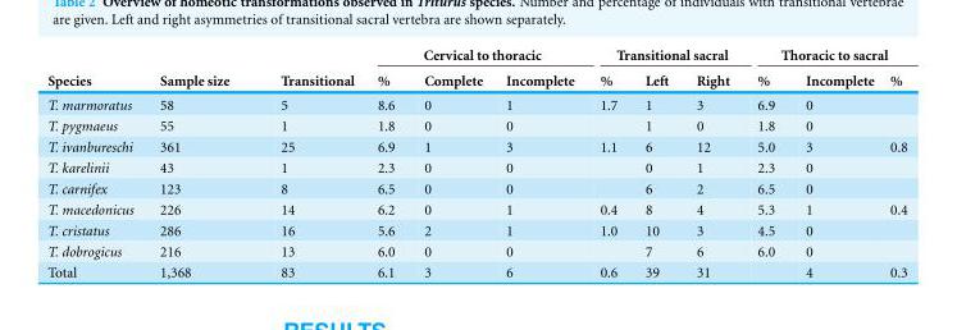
<table><thead><tr><td rowspan="2">Species</td><td rowspan="2">Sample size</td><td rowspan="2">Transitional</td><td colspan="3">Cervical to thoracic</td><td colspan="3">Transitional sacral</td><td colspan="3">Thoracic to sacral</td></tr><tr><td>%</td><td>Complete</td><td>Incomplete</td><td>%</td><td>Left</td><td>Right</td><td>%</td><td>Incomplete</td><td>%</td></tr></thead><tbody><tr><td>T. marmoratus</td><td>58</td><td>5</td><td>8.6</td><td>0</td><td>1</td><td>1.7</td><td>1</td><td>3</td><td>6.9</td><td>0</td><td></td></tr><tr><td>T. pygmaeus</td><td>55</td><td>1</td><td>1.8</td><td>0</td><td>0</td><td></td><td>1</td><td>0</td><td>1.8</td><td>0</td><td></td></tr><tr><td>T. ivanbureschi</td><td>361</td><td>25</td><td>6.9</td><td>1</td><td>3</td><td>1.1</td><td>6</td><td>12</td><td>5.0</td><td>3</td><td>0.8</td></tr><tr><td>T. karelinii</td><td>43</td><td>1</td><td>2.3</td><td>0</td><td>0</td><td></td><td>0</td><td>1</td><td>2.3</td><td>0</td><td></td></tr><tr><td>T. carnifex</td><td>123</td><td>8</td><td>6.5</td><td>0</td><td>0</td><td></td><td>6</td><td>2</td><td>6.5</td><td>0</td><td></td></tr><tr><td>T. macedonicus</td><td>226</td><td>14</td><td>6.2</td><td>0</td><td>1</td><td>0.4</td><td>8</td><td>4</td><td>5.3</td><td>1</td><td>0.4</td></tr><tr><td>T. cristatus</td><td>286</td><td>16</td><td>5.6</td><td>2</td><td>1</td><td>1.0</td><td>10</td><td>3</td><td>4.5</td><td>0</td><td></td></tr><tr><td>T. dobrogicus</td><td>216</td><td>13</td><td>6.0</td><td>0</td><td>0</td><td></td><td>7</td><td>6</td><td>6.0</td><td>0</td><td></td></tr><tr><td>Total</td><td>1,368</td><td>83</td><td>6.1</td><td>3</td><td>6</td><td>0.6</td><td>39</td><td>31</td><td></td><td>4</td><td>0.3</td></tr></tbody></table>